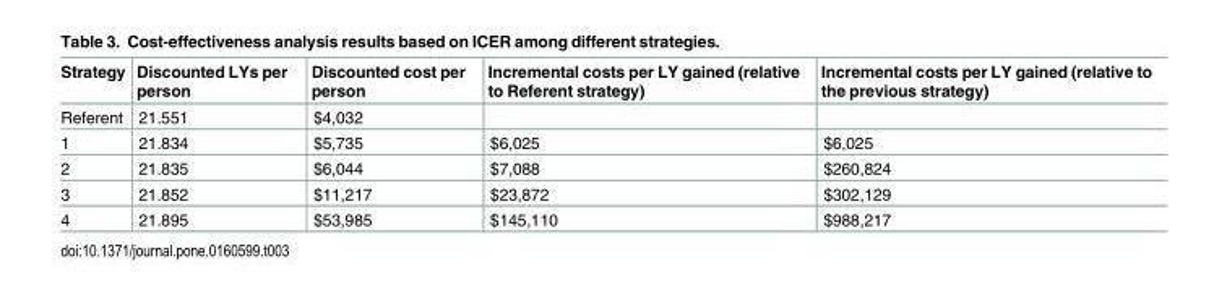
<table><thead><tr><td>Strategy</td><td>Discounted LYs per person</td><td>Discounted cost per person</td><td>Incremental costs per LY gained (relative to Referent strategy)</td><td>Incremental costs per LY gained (relative to the previous strategy)</td></tr></thead><tbody><tr><td>Referent</td><td>21.551</td><td>$4,032</td><td></td><td></td></tr><tr><td>1</td><td>21.834</td><td>$5,735</td><td>$6,025</td><td>$6,025</td></tr><tr><td>2</td><td>21.835</td><td>$6,044</td><td>$7,088</td><td>$260,824</td></tr><tr><td>3</td><td>21.852</td><td>$11,217</td><td>$23,872</td><td>$302,129</td></tr><tr><td>4</td><td>21.895</td><td>$53,985</td><td>$145,110</td><td>$988,217</td></tr></tbody></table>